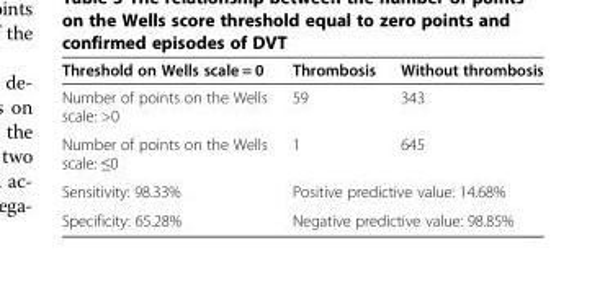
<table><thead><tr><td>Threshold on Wells scale = 0</td><td>Thrombosis</td><td>Without thrombosis</td></tr></thead><tbody><tr><td>Number of points on the Wells scale: &gt;0</td><td>59</td><td>343</td></tr><tr><td>Number of points on the Wells scale: ≤0</td><td>1</td><td>645</td></tr><tr><td>Sensitivity: 98.33%</td><td colspan="2">Positive predictive value: 14.68%</td></tr><tr><td>Specificity: 65.28%</td><td colspan="2">Negative predictive value: 98.85%</td></tr></tbody></table>